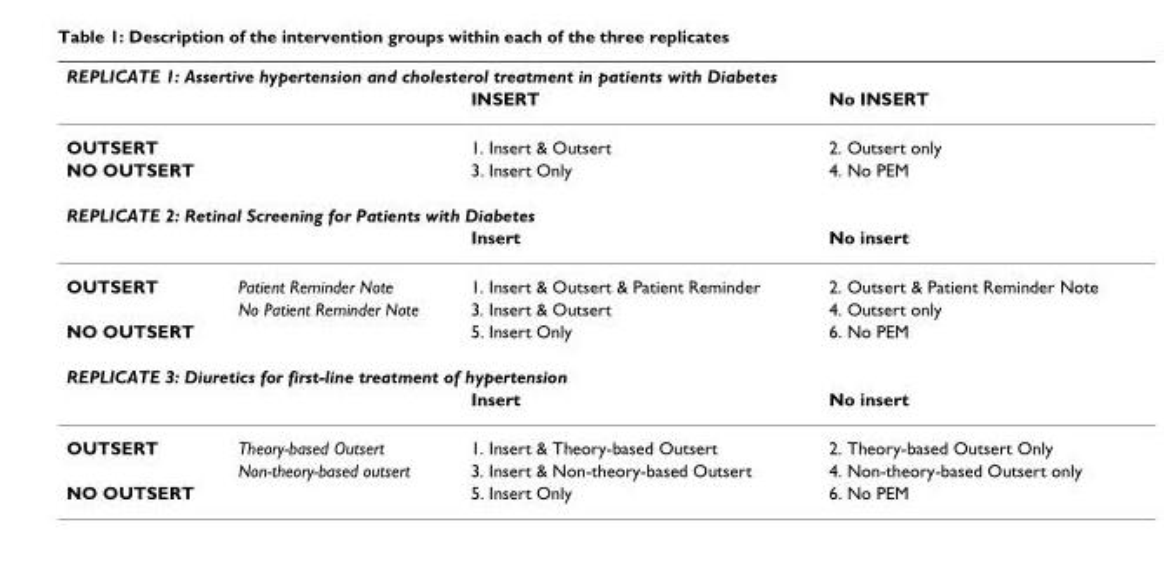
<table><thead><tr><td colspan="4">REPLICATE 1: Assertive hypertension and cholesterol treatment in patients with Diabetes</td></tr><tr><td></td><td></td><td>INSERT</td><td>No INSERT</td></tr></thead><tbody><tr><td>OUTSERT</td><td></td><td>1. Insert &amp; Outsert</td><td>2. Outsert only</td></tr><tr><td>NO OUTSERT</td><td></td><td>3. Insert Only</td><td>4. No PEM</td></tr><tr><td colspan="4">REPLICATE 2: Retinal Screening for Patients with Diabetes</td></tr><tr><td></td><td></td><td>Insert</td><td>No insert</td></tr><tr><td rowspan="2">OUTSERT</td><td>Patient Reminder Note</td><td>1. Insert &amp; Outsert &amp; Patient Reminder</td><td>2. Outsert &amp; Patient Reminder Note</td></tr><tr><td>No Patient Reminder Note</td><td>3. Insert &amp; Outsert</td><td>4. Outsert only</td></tr><tr><td>NO OUTSERT</td><td></td><td>5. Insert Only</td><td>6. No PEM</td></tr><tr><td colspan="4">REPLICATE 3: Diuretics for first-line treatment of hypertension</td></tr><tr><td></td><td></td><td>Insert</td><td>No insert</td></tr><tr><td rowspan="2">OUTSERT</td><td>Theory-based Outsert</td><td>1. Insert &amp; Theory-based Outsert</td><td>2. Theory-based Outsert Only</td></tr><tr><td>Non-theory-based outsert</td><td>3. Insert &amp; Non-theory-based Outsert</td><td>4. Non-theory-based Outsert only</td></tr><tr><td>NO OUTSERT</td><td></td><td>5. Insert Only</td><td>6. No PEM</td></tr></tbody></table>